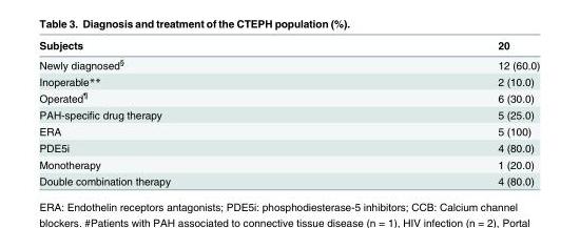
<table><thead><tr><td>Subjects</td><td>20</td></tr></thead><tbody><tr><td>Newly diagnosed<sup>§</sup></td><td>12 (60.0)</td></tr><tr><td>Inoperable**</td><td>2 (10.0)</td></tr><tr><td>Operated<sup>¶</sup></td><td>6 (30.0)</td></tr><tr><td>PAH-specific drug therapy</td><td>5 (25.0)</td></tr><tr><td>ERA</td><td>5 (100)</td></tr><tr><td>PDE5i</td><td>4 (80.0)</td></tr><tr><td>Monotherapy</td><td>1 (20.0)</td></tr><tr><td>Double combination therapy</td><td>4 (80.0)</td></tr></tbody></table>